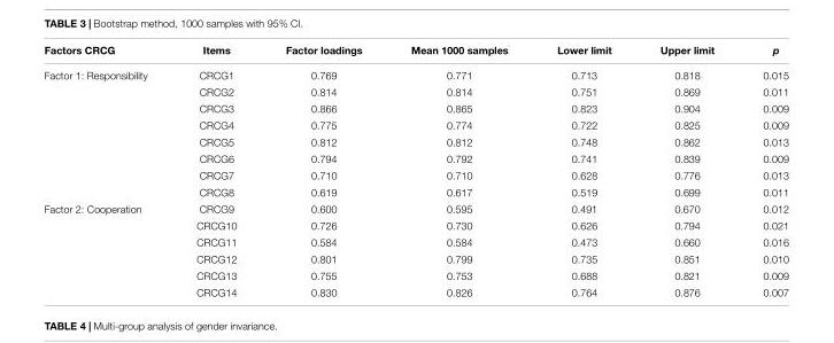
<table><thead><tr><td>Factors CRCG</td><td>Items</td><td>Factor loadings</td><td>Mean 1000 samples</td><td>Lower limit</td><td>Upper limit</td><td>p</td></tr></thead><tbody><tr><td rowspan="8">Factor 1: Responsibility</td><td>CRCG1</td><td>0.769</td><td>0.771</td><td>0.713</td><td>0.818</td><td>0.015</td></tr><tr><td>CRCG2</td><td>0.814</td><td>0.814</td><td>0.751</td><td>0.869</td><td>0.011</td></tr><tr><td>CRCG3</td><td>0.866</td><td>0.865</td><td>0.823</td><td>0.904</td><td>0.009</td></tr><tr><td>CRCG4</td><td>0.775</td><td>0.774</td><td>0.722</td><td>0.825</td><td>0.009</td></tr><tr><td>CRCG5</td><td>0.812</td><td>0.812</td><td>0.748</td><td>0.862</td><td>0.013</td></tr><tr><td>CRCG6</td><td>0.794</td><td>0.792</td><td>0.741</td><td>0.839</td><td>0.009</td></tr><tr><td>CRCG7</td><td>0.710</td><td>0.710</td><td>0.628</td><td>0.776</td><td>0.013</td></tr><tr><td>CRCG8</td><td>0.619</td><td>0.617</td><td>0.519</td><td>0.699</td><td>0.011</td></tr><tr><td rowspan="6">Factor 2: Cooperation</td><td>CRCG9</td><td>0.600</td><td>0.595</td><td>0.491</td><td>0.670</td><td>0.012</td></tr><tr><td>CRCG10</td><td>0.726</td><td>0.730</td><td>0.626</td><td>0.794</td><td>0.021</td></tr><tr><td>CRCG11</td><td>0.584</td><td>0.584</td><td>0.473</td><td>0.660</td><td>0.016</td></tr><tr><td>CRCG12</td><td>0.801</td><td>0.799</td><td>0.735</td><td>0.851</td><td>0.010</td></tr><tr><td>CRCG13</td><td>0.755</td><td>0.753</td><td>0.688</td><td>0.821</td><td>0.009</td></tr><tr><td>CRCG14</td><td>0.830</td><td>0.826</td><td>0.764</td><td>0.876</td><td>0.007</td></tr></tbody></table>